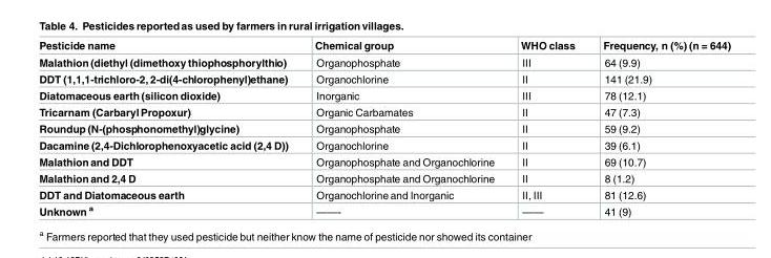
<table><thead><tr><td>Pesticide name</td><td>Chemical group</td><td>WHO class</td><td>Frequency, n (%) (n = 644)</td></tr></thead><tbody><tr><td>Malathion (diethyl (dimethoxy thiophosphorylthio)</td><td>Organophosphate</td><td>III</td><td>64 (9.9)</td></tr><tr><td>DDT (1,1,1-trichloro-2, 2-di(4-chlorophenyl)ethane)</td><td>Organochlorine</td><td>II</td><td>141 (21.9)</td></tr><tr><td>Diatomaceous earth (silicon dioxide)</td><td>Inorganic</td><td>III</td><td>78 (12.1)</td></tr><tr><td>Tricarnam (Carbaryl Propoxur)</td><td>Organic Carbamates</td><td>II</td><td>47 (7.3)</td></tr><tr><td>Roundup (N-(phosphonomethyl)glycine)</td><td>Organophosphate</td><td>II</td><td>59 (9.2)</td></tr><tr><td>Dacamine (2,4-Dichlorophenoxyacetic acid (2,4 D))</td><td>Organochlorine</td><td>II</td><td>39 (6.1)</td></tr><tr><td>Malathion and DDT</td><td>Organophosphate and Organochlorine</td><td>II</td><td>69 (10.7)</td></tr><tr><td>Malathion and 2,4 D</td><td>Organophosphate and Organochlorine</td><td>II</td><td>8 (1.2)</td></tr><tr><td>DDT and Diatomaceous earth</td><td>Organochlorine and Inorganic</td><td>II, III</td><td>81 (12.6)</td></tr><tr><td>Unknown <sup>a</sup></td><td>——-</td><td>——</td><td>41 (9)</td></tr></tbody></table>